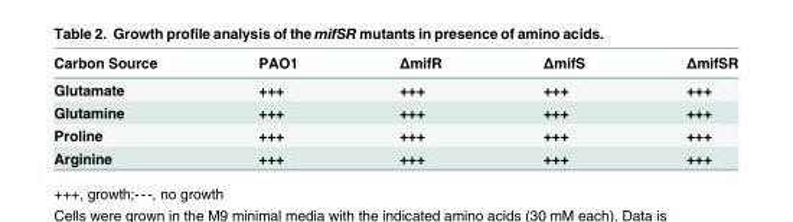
<table><thead><tr><td>Carbon Source</td><td>PAO1</td><td>ΔmifR</td><td>ΔmifS</td><td>ΔmifSR</td></tr></thead><tbody><tr><td>Glutamate</td><td>+++</td><td>+++</td><td>+++</td><td>+++</td></tr><tr><td>Glutamine</td><td>+++</td><td>+++</td><td>+++</td><td>+++</td></tr><tr><td>Proline</td><td>+++</td><td>+++</td><td>+++</td><td>+++</td></tr><tr><td>Arginine</td><td>+++</td><td>+++</td><td>+++</td><td>+++</td></tr></tbody></table>